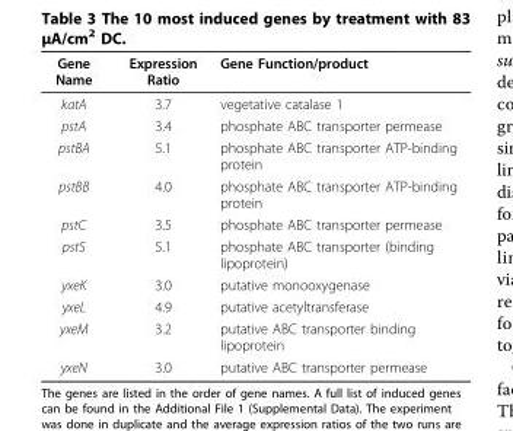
<table><thead><tr><td>Gene Name</td><td>Expression Ratio</td><td>Gene Function/product</td></tr></thead><tbody><tr><td>katA</td><td>3.7</td><td>vegetative catalase 1</td></tr><tr><td>pstA</td><td>3.4</td><td>phosphate ABC transporter permease</td></tr><tr><td>pstBA</td><td>5.1</td><td>phosphate ABC transporter ATP-binding protein</td></tr><tr><td>pstBB</td><td>4.0</td><td>phosphate ABC transporter ATP-binding protein</td></tr><tr><td>pstC</td><td>3.5</td><td>phosphate ABC transporter permease</td></tr><tr><td>pstS</td><td>5.1</td><td>phosphate ABC transporter (binding lipoprotein)</td></tr><tr><td>yxeK</td><td>3.0</td><td>putative monooxygenase</td></tr><tr><td>yxeL</td><td>4.9</td><td>putative acetyltransferase</td></tr><tr><td>yxeM</td><td>3.2</td><td>putative ABC transporter binding lipoprotein</td></tr><tr><td>yxeN</td><td>3.0</td><td>putative ABC transporter permease</td></tr></tbody></table>